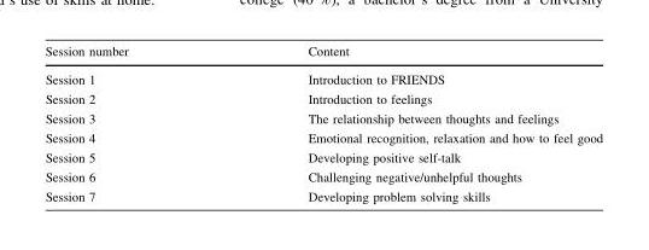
<table><thead><tr><td>Session number</td><td>Content</td></tr></thead><tbody><tr><td>Session 1</td><td>Introduction to FRIENDS</td></tr><tr><td>Session 2</td><td>Introduction to feelings</td></tr><tr><td>Session 3</td><td>The relationship between thoughts and feelings</td></tr><tr><td>Session 4</td><td>Emotional recognition, relaxation and how to feel good</td></tr><tr><td>Session 5</td><td>Developing positive self-talk</td></tr><tr><td>Session 6</td><td>Challenging negative/unhelpful thoughts</td></tr><tr><td>Session 7</td><td>Developing problem solving skills</td></tr></tbody></table>